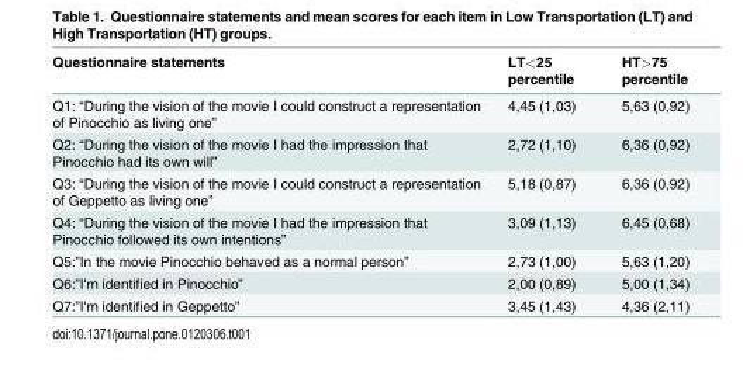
<table><thead><tr><td>Questionnaire statements</td><td>LT&lt;25 percentile</td><td>HT&gt;75 percentile</td></tr></thead><tbody><tr><td>Q1: “During the vision of the movie I could construct a representation of Pinocchio as living one”</td><td>4,45 (1,03)</td><td>5,63 (0,92)</td></tr><tr><td>Q2: “During the vision of the movie I had the impression that Pinocchio had its own will”</td><td>2,72 (1,10)</td><td>6,36 (0,92)</td></tr><tr><td>Q3: “During the vision of the movie I could construct a representation of Geppetto as living one”</td><td>5,18 (0,87)</td><td>6,36 (0,92)</td></tr><tr><td>Q4: “During the vision of the movie I had the impression that Pinocchio followed its own intentions”</td><td>3,09 (1,13)</td><td>6,45 (0,68)</td></tr><tr><td>Q5:”In the movie Pinocchio behaved as a normal person”</td><td>2,73 (1,00)</td><td>5,63 (1,20)</td></tr><tr><td>Q6:”I&#x27;m identified in Pinocchio”</td><td>2,00 (0,89)</td><td>5,00 (1,34)</td></tr><tr><td>Q7:”I&#x27;m identified in Geppetto”</td><td>3,45 (1,43)</td><td>4,36 (2,11)</td></tr></tbody></table>